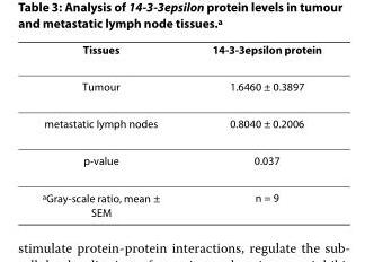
<table><thead><tr><td>Tissues</td><td>14-3-3epsilon protein</td></tr></thead><tbody><tr><td>Tumour</td><td>1.6460 ± 0.3897</td></tr><tr><td>metastatic lymph nodes</td><td>0.8040 ± 0.2006</td></tr><tr><td>p-value</td><td>0.037</td></tr><tr><td><sup>a</sup>Gray-scale ratio, mean ± SEM</td><td>n = 9</td></tr></tbody></table>